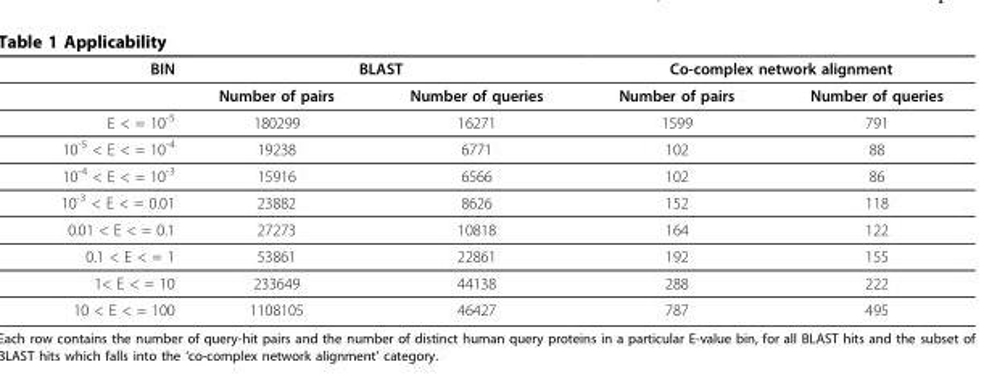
<table><thead><tr><td rowspan="2">BIN</td><td colspan="2">BLAST</td><td colspan="2">Co-complex network alignment</td></tr><tr><td>Number of pairs</td><td>Number of queries</td><td>Number of pairs</td><td>Number of queries</td></tr></thead><tbody><tr><td>E &lt; = 10<sup>-5</sup></td><td>180299</td><td>16271</td><td>1599</td><td>791</td></tr><tr><td>10<sup>-5</sup> &lt; E &lt; = 10<sup>-4</sup></td><td>19238</td><td>6771</td><td>102</td><td>88</td></tr><tr><td>10<sup>-4</sup> &lt; E &lt; = 10<sup>-3</sup></td><td>15916</td><td>6566</td><td>102</td><td>86</td></tr><tr><td>10<sup>-3</sup> &lt; E &lt; = 0.01</td><td>23882</td><td>8626</td><td>152</td><td>118</td></tr><tr><td>0.01 &lt; E &lt; = 0.1</td><td>27273</td><td>10818</td><td>164</td><td>122</td></tr><tr><td>0.1 &lt; E &lt; = 1</td><td>53861</td><td>22861</td><td>192</td><td>155</td></tr><tr><td>1&lt; E &lt; = 10</td><td>233649</td><td>44138</td><td>288</td><td>222</td></tr><tr><td>10 &lt; E &lt; = 100</td><td>1108105</td><td>46427</td><td>787</td><td>495</td></tr></tbody></table>